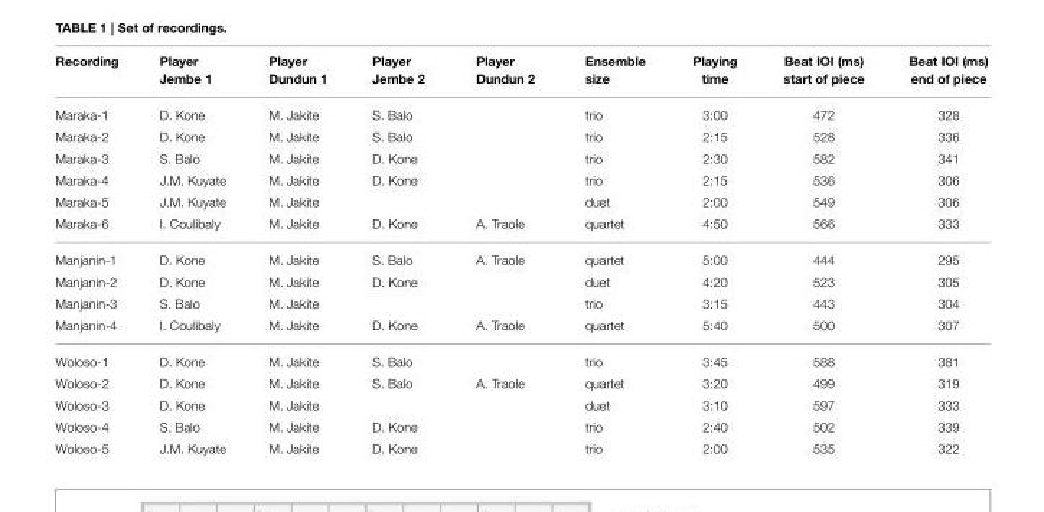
<table><thead><tr><td>Recording</td><td>Player Jembe 1</td><td>Player Dundun 1</td><td>Player Jembe 2</td><td>Player Dundun 2</td><td>Ensemble size</td><td>Playing time</td><td>Beat IOI (ms) start of piece</td><td>Beat IOI (ms) end of piece</td></tr></thead><tbody><tr><td>Maraka-1</td><td>D. Kone</td><td>M. Jakite</td><td>S. Balo</td><td></td><td>trio</td><td>3:00</td><td>472</td><td>328</td></tr><tr><td>Maraka-2</td><td>D. Kone</td><td>M. Jakite</td><td>S. Balo</td><td></td><td>trio</td><td>2:15</td><td>528</td><td>336</td></tr><tr><td>Maraka-3</td><td>S. Balo</td><td>M. Jakite</td><td>D. Kone</td><td></td><td>trio</td><td>2:30</td><td>582</td><td>341</td></tr><tr><td>Maraka-4</td><td>J.M. Kuyate</td><td>M. Jakite</td><td>D. Kone</td><td></td><td>trio</td><td>2:15</td><td>536</td><td>306</td></tr><tr><td>Maraka-5</td><td>J.M. Kuyate</td><td>M. Jakite</td><td></td><td></td><td>duet</td><td>2:00</td><td>549</td><td>306</td></tr><tr><td>Maraka-6</td><td>I. Coulibaly</td><td>M. Jakite</td><td>D. Kone</td><td>A. Traole</td><td>quartet</td><td>4:50</td><td>566</td><td>333</td></tr><tr><td>Manjanin-1</td><td>D. Kone</td><td>M. Jakite</td><td>S. Balo</td><td>A. Traole</td><td>quartet</td><td>5:00</td><td>444</td><td>295</td></tr><tr><td>Manjanin-2</td><td>D. Kone</td><td>M. Jakite</td><td>D. Kone</td><td></td><td>duet</td><td>4:20</td><td>523</td><td>305</td></tr><tr><td>Manjanin-3</td><td>S. Balo</td><td>M. Jakite</td><td></td><td></td><td>trio</td><td>3:15</td><td>443</td><td>304</td></tr><tr><td>Manjanin-4</td><td>I. Coulibaly</td><td>M. Jakite</td><td>D. Kone</td><td>A. Traole</td><td>quartet</td><td>5:40</td><td>500</td><td>307</td></tr><tr><td>Woloso-1</td><td>D. Kone</td><td>M. Jakite</td><td>S. Balo</td><td></td><td>trio</td><td>3:45</td><td>588</td><td>381</td></tr><tr><td>Woloso-2</td><td>D. Kone</td><td>M. Jakite</td><td>S. Balo</td><td>A. Traole</td><td>quartet</td><td>3:20</td><td>499</td><td>319</td></tr><tr><td>Woloso-3</td><td>D. Kone</td><td>M. Jakite</td><td></td><td></td><td>duet</td><td>3:10</td><td>597</td><td>333</td></tr><tr><td>Woloso-4</td><td>S. Balo</td><td>M. Jakite</td><td>D. Kone</td><td></td><td>trio</td><td>2:40</td><td>502</td><td>339</td></tr><tr><td>Woloso-5</td><td>J.M. Kuyate</td><td>M. Jakite</td><td>D. Kone</td><td></td><td>trio</td><td>2:00</td><td>535</td><td>322</td></tr></tbody></table>